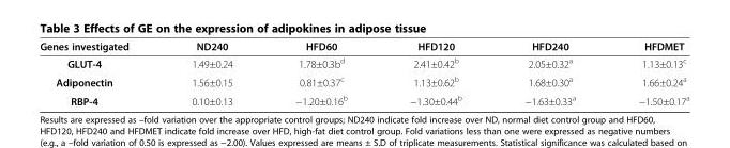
<table><thead><tr><td>Genes investigated</td><td>ND240</td><td>HFD60</td><td>HFD120</td><td>HFD240</td><td>HFDMET</td></tr></thead><tbody><tr><td>GLUT-4</td><td>1.49±0.24</td><td>1.78±0.3b<sup>d</sup></td><td>2.41±0.42<sup>b</sup></td><td>2.05±0.32<sup>a</sup></td><td>1.13±0.13<sup>c</sup></td></tr><tr><td>Adiponectin</td><td>1.56±0.15</td><td>0.81±0.37<sup>c</sup></td><td>1.13±0.62<sup>b</sup></td><td>1.68±0.30<sup>a</sup></td><td>1.66±0.24<sup>a</sup></td></tr><tr><td>RBP-4</td><td>0.10±0.13</td><td>−1.20±0.16<sup>b</sup></td><td>−1.30±0.44<sup>b</sup></td><td>−1.63±0.33<sup>a</sup></td><td>−1.50±0.17<sup>a</sup></td></tr></tbody></table>